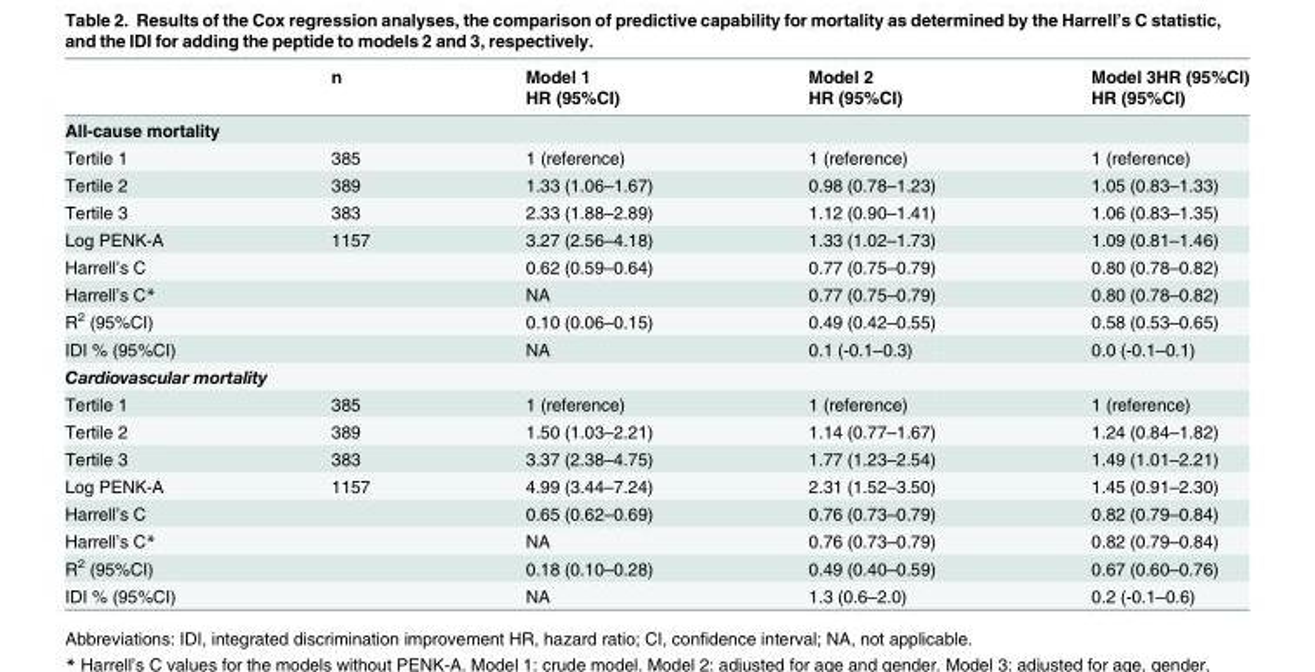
<table><thead><tr><td rowspan="2"></td><td rowspan="2">n</td><td rowspan="2">Model 1 HR (95%CI)</td><td rowspan="2">Model 2 HR (95%CI)</td><td rowspan="2">Model 3HR (95%CI) HR (95%CI)</td></tr><tr></tr></thead><tbody><tr><td colspan="5">All-cause mortality</td></tr><tr><td>Tertile 1</td><td>385</td><td>1 (reference)</td><td>1 (reference)</td><td>1 (reference)</td></tr><tr><td>Tertile 2</td><td>389</td><td>1.33 (1.06–1.67)</td><td>0.98 (0.78–1.23)</td><td>1.05 (0.83–1.33)</td></tr><tr><td>Tertile 3</td><td>383</td><td>2.33 (1.88–2.89)</td><td>1.12 (0.90–1.41)</td><td>1.06 (0.83–1.35)</td></tr><tr><td>Log PENK-A</td><td>1157</td><td>3.27 (2.56–4.18)</td><td>1.33 (1.02–1.73)</td><td>1.09 (0.81–1.46)</td></tr><tr><td>Harrell’s C</td><td></td><td>0.62 (0.59–0.64)</td><td>0.77 (0.75–0.79)</td><td>0.80 (0.78–0.82)</td></tr><tr><td>Harrell’s C*</td><td></td><td>NA</td><td>0.77 (0.75–0.79)</td><td>0.80 (0.78–0.82)</td></tr><tr><td>R<sup>2</sup> (95%CI)</td><td></td><td>0.10 (0.06–0.15)</td><td>0.49 (0.42–0.55)</td><td>0.58 (0.53–0.65)</td></tr><tr><td>IDI % (95%CI)</td><td></td><td>NA</td><td>0.1 (-0.1–0.3)</td><td>0.0 (-0.1–0.1)</td></tr><tr><td colspan="5">Cardiovascular mortality</td></tr><tr><td>Tertile 1</td><td>385</td><td>1 (reference)</td><td>1 (reference)</td><td>1 (reference)</td></tr><tr><td>Tertile 2</td><td>389</td><td>1.50 (1.03–2.21)</td><td>1.14 (0.77–1.67)</td><td>1.24 (0.84–1.82)</td></tr><tr><td>Tertile 3</td><td>383</td><td>3.37 (2.38–4.75)</td><td>1.77 (1.23–2.54)</td><td>1.49 (1.01–2.21)</td></tr><tr><td>Log PENK-A</td><td>1157</td><td>4.99 (3.44–7.24)</td><td>2.31 (1.52–3.50)</td><td>1.45 (0.91–2.30)</td></tr><tr><td>Harrell’s C</td><td></td><td>0.65 (0.62–0.69)</td><td>0.76 (0.73–0.79)</td><td>0.82 (0.79–0.84)</td></tr><tr><td>Harrell’s C*</td><td></td><td>NA</td><td>0.76 (0.73–0.79)</td><td>0.82 (0.79–0.84)</td></tr><tr><td>R<sup>2</sup> (95%CI)</td><td></td><td>0.18 (0.10–0.28)</td><td>0.49 (0.40–0.59)</td><td>0.67 (0.60–0.76)</td></tr><tr><td>IDI % (95%CI)</td><td></td><td>NA</td><td>1.3 (0.6–2.0)</td><td>0.2 (-0.1–0.6)</td></tr></tbody></table>